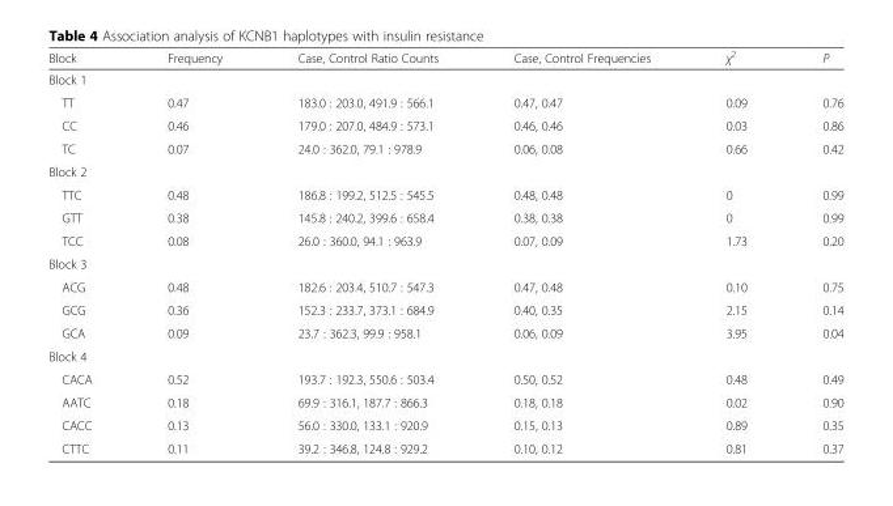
<table><thead><tr><td>Block</td><td>Frequency</td><td>Case, Control Ratio Counts</td><td>Case, Control Frequencies</td><td>χ<sup>2</sup></td><td>P</td></tr></thead><tbody><tr><td colspan="6">Block 1</td></tr><tr><td>TT</td><td>0.47</td><td>183.0 : 203.0, 491.9 : 566.1</td><td>0.47, 0.47</td><td>0.09</td><td>0.76</td></tr><tr><td>CC</td><td>0.46</td><td>179.0 : 207.0, 484.9 : 573.1</td><td>0.46, 0.46</td><td>0.03</td><td>0.86</td></tr><tr><td>TC</td><td>0.07</td><td>24.0 : 362.0, 79.1 : 978.9</td><td>0.06, 0.08</td><td>0.66</td><td>0.42</td></tr><tr><td colspan="6">Block 2</td></tr><tr><td>TTC</td><td>0.48</td><td>186.8 : 199.2, 512.5 : 545.5</td><td>0.48, 0.48</td><td>0</td><td>0.99</td></tr><tr><td>GTT</td><td>0.38</td><td>145.8 : 240.2, 399.6 : 658.4</td><td>0.38, 0.38</td><td>0</td><td>0.99</td></tr><tr><td>TCC</td><td>0.08</td><td>26.0 : 360.0, 94.1 : 963.9</td><td>0.07, 0.09</td><td>1.73</td><td>0.20</td></tr><tr><td colspan="6">Block 3</td></tr><tr><td>ACG</td><td>0.48</td><td>182.6 : 203.4, 510.7 : 547.3</td><td>0.47, 0.48</td><td>0.10</td><td>0.75</td></tr><tr><td>GCG</td><td>0.36</td><td>152.3 : 233.7, 373.1 : 684.9</td><td>0.40, 0.35</td><td>2.15</td><td>0.14</td></tr><tr><td>GCA</td><td>0.09</td><td>23.7 : 362.3, 99.9 : 958.1</td><td>0.06, 0.09</td><td>3.95</td><td>0.04</td></tr><tr><td colspan="6">Block 4</td></tr><tr><td>CACA</td><td>0.52</td><td>193.7 : 192.3, 550.6 : 503.4</td><td>0.50, 0.52</td><td>0.48</td><td>0.49</td></tr><tr><td>AATC</td><td>0.18</td><td>69.9 : 316.1, 187.7 : 866.3</td><td>0.18, 0.18</td><td>0.02</td><td>0.90</td></tr><tr><td>CACC</td><td>0.13</td><td>56.0 : 330.0, 133.1 : 920.9</td><td>0.15, 0.13</td><td>0.89</td><td>0.35</td></tr><tr><td>CTTC</td><td>0.11</td><td>39.2 : 346.8, 124.8 : 929.2</td><td>0.10, 0.12</td><td>0.81</td><td>0.37</td></tr></tbody></table>